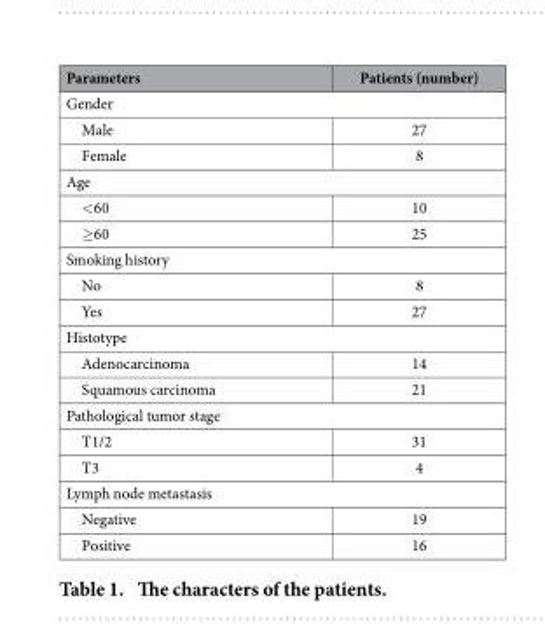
<table><thead><tr><td>Parameters</td><td>Patients (number)</td></tr></thead><tbody><tr><td colspan="2">Gender</td></tr><tr><td>Male</td><td>27</td></tr><tr><td>Female</td><td>8</td></tr><tr><td colspan="2">Age</td></tr><tr><td>&lt; 60</td><td>10</td></tr><tr><td>≥ 60</td><td>25</td></tr><tr><td colspan="2">Smoking history</td></tr><tr><td>No</td><td>8</td></tr><tr><td>Yes</td><td>27</td></tr><tr><td colspan="2">Histotype</td></tr><tr><td>Adenocarcinoma</td><td>14</td></tr><tr><td>Squamous carcinoma</td><td>21</td></tr><tr><td colspan="2">Pathological tumor stage</td></tr><tr><td>T1/2</td><td>31</td></tr><tr><td>T3</td><td>4</td></tr><tr><td colspan="2">Lymph node metastasis</td></tr><tr><td>Negative</td><td>19</td></tr><tr><td>Positive</td><td>16</td></tr></tbody></table>